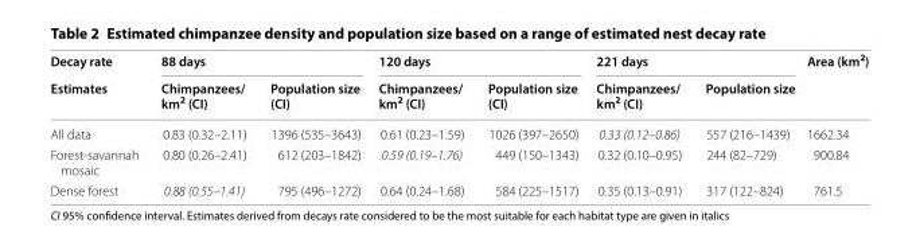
<table><thead><tr><td rowspan="2">Decay rate Estimates</td><td colspan="2">88 days</td><td colspan="2">120 days</td><td colspan="2">221 days</td><td rowspan="2">Area (km<sup>2</sup>)</td></tr><tr><td>Chimpanzees/ km<sup>2</sup> (CI)</td><td>Population size (CI)</td><td>Chimpanzees/ km<sup>2</sup> (CI)</td><td>Population size (CI)</td><td>Chimpanzees/ km<sup>2</sup> (CI)</td><td>Population size</td></tr></thead><tbody><tr><td>All data</td><td>0.83 (0.32–2.11)</td><td>1396 (535–3643)</td><td>0.61 (0.23–1.59)</td><td>1026 (397–2650)</td><td>0.33 (0.12–0.86)</td><td>557 (216–1439)</td><td>1662.34</td></tr><tr><td>Forest-savannah mosaic</td><td>0.80 (0.26–2.41)</td><td>612 (203–1842)</td><td>0.59 (0.19–1.76)</td><td>449 (150–1343)</td><td>0.32 (0.10–0.95)</td><td>244 (82–729)</td><td>900.84</td></tr><tr><td>Dense forest</td><td>0.88 (0.55–1.41)</td><td>795 (496–1272)</td><td>0.64 (0.24–1.68)</td><td>584 (225–1517)</td><td>0.35 (0.13–0.91)</td><td>317 (122–824)</td><td>761.5</td></tr></tbody></table>